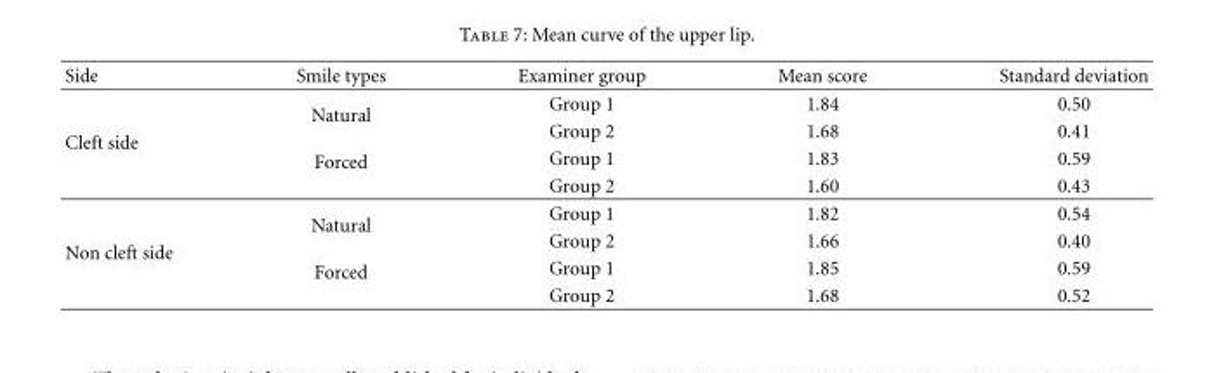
<table><thead><tr><td>Side</td><td>Smile types</td><td>Examiner group</td><td>Mean score</td><td>Standard deviation</td></tr></thead><tbody><tr><td rowspan="4">Cleft side</td><td rowspan="2">Natural</td><td>Group 1</td><td>1.84</td><td>0.50</td></tr><tr><td>Group 2</td><td>1.68</td><td>0.41</td></tr><tr><td rowspan="2">Forced</td><td>Group 1</td><td>1.83</td><td>0.59</td></tr><tr><td>Group 2</td><td>1.60</td><td>0.43</td></tr><tr><td rowspan="4">Non cleft side</td><td rowspan="2">Natural</td><td>Group 1</td><td>1.82</td><td>0.54</td></tr><tr><td>Group 2</td><td>1.66</td><td>0.40</td></tr><tr><td rowspan="2">Forced</td><td>Group 1</td><td>1.85</td><td>0.59</td></tr><tr><td>Group 2</td><td>1.68</td><td>0.52</td></tr></tbody></table>